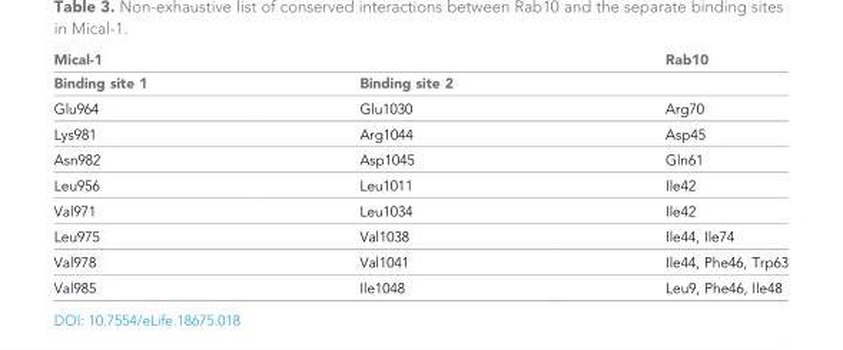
<table><thead><tr><td colspan="2">Mical-1</td><td rowspan="2">Rab10</td></tr><tr><td>Binding site 1</td><td>Binding site 2</td></tr></thead><tbody><tr><td>Glu964</td><td>Glu1030</td><td>Arg70</td></tr><tr><td>Lys981</td><td>Arg1044</td><td>Asp45</td></tr><tr><td>Asn982</td><td>Asp1045</td><td>Gln61</td></tr><tr><td>Leu956</td><td>Leu1011</td><td>Ile42</td></tr><tr><td>Val971</td><td>Leu1034</td><td>Ile42</td></tr><tr><td>Leu975</td><td>Val1038</td><td>Ile44, Ile74</td></tr><tr><td>Val978</td><td>Val1041</td><td>Ile44, Phe46, Trp63</td></tr><tr><td>Val985</td><td>Ile1048</td><td>Leu9, Phe46, Ile48</td></tr></tbody></table>